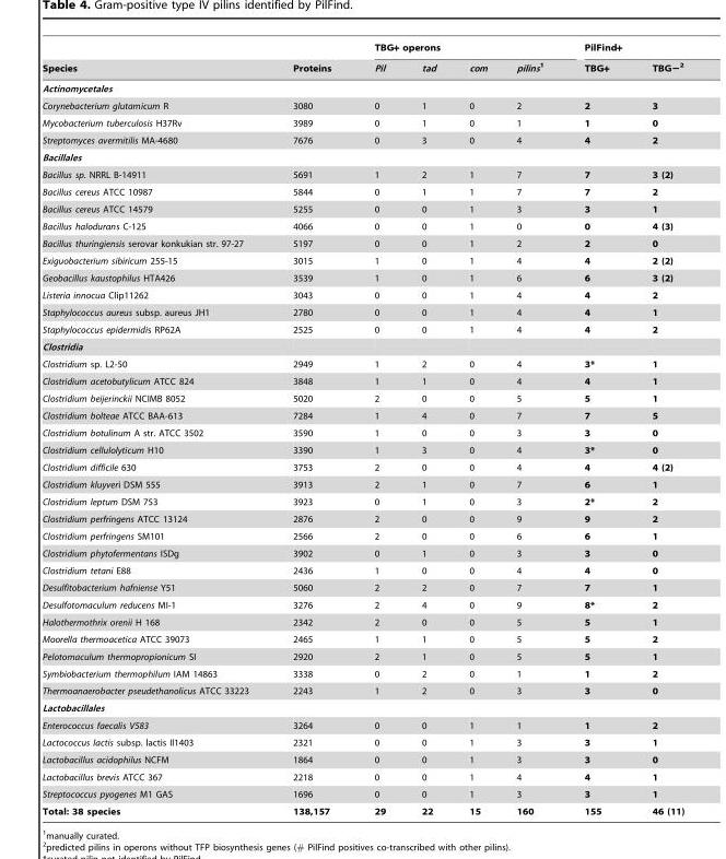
<table><thead><tr><td rowspan="2">Species</td><td rowspan="2">Proteins</td><td colspan="4">TBG+ operons</td><td colspan="2">PilFind+</td></tr><tr><td>Pil</td><td>tad</td><td>com</td><td>pilins1</td><td>TBG+</td><td>TBG−2</td></tr></thead><tbody><tr><td colspan="8">Actinomycetales</td></tr><tr><td>Corynebacterium glutamicum R</td><td>3080</td><td>0</td><td>1</td><td>0</td><td>2</td><td>2</td><td>3</td></tr><tr><td>Mycobacterium tuberculosis H37Rv</td><td>3989</td><td>0</td><td>1</td><td>0</td><td>1</td><td>1</td><td>0</td></tr><tr><td>Streptomyces avermitilis MA-4680</td><td>7676</td><td>0</td><td>3</td><td>0</td><td>4</td><td>4</td><td>2</td></tr><tr><td colspan="8">Bacillales</td></tr><tr><td>Bacillus sp. NRRL B-14911</td><td>5691</td><td>1</td><td>2</td><td>1</td><td>7</td><td>7</td><td>3 (2)</td></tr><tr><td>Bacillus cereus ATCC 10987</td><td>5844</td><td>0</td><td>1</td><td>1</td><td>7</td><td>7</td><td>2</td></tr><tr><td>Bacillus cereus ATCC 14579</td><td>5255</td><td>0</td><td>0</td><td>1</td><td>3</td><td>3</td><td>1</td></tr><tr><td>Bacillus halodurans C-125</td><td>4066</td><td>0</td><td>0</td><td>1</td><td>0</td><td>0</td><td>4 (3)</td></tr><tr><td>Bacillus thuringiensis serovar konkukian str. 97-27</td><td>5197</td><td>0</td><td>0</td><td>1</td><td>2</td><td>2</td><td>0</td></tr><tr><td>Exiguobacterium sibiricum 255-15</td><td>3015</td><td>1</td><td>0</td><td>1</td><td>4</td><td>4</td><td>2 (2)</td></tr><tr><td>Geobacillus kaustophilus HTA426</td><td>3539</td><td>1</td><td>0</td><td>1</td><td>6</td><td>6</td><td>3 (2)</td></tr><tr><td>Listeria innocua Clip11262</td><td>3043</td><td>0</td><td>0</td><td>1</td><td>4</td><td>4</td><td>2</td></tr><tr><td>Staphylococcus aureus subsp. aureus JH1</td><td>2780</td><td>0</td><td>0</td><td>1</td><td>4</td><td>4</td><td>1</td></tr><tr><td>Staphylococcus epidermidis RP62A</td><td>2525</td><td>0</td><td>0</td><td>1</td><td>4</td><td>4</td><td>2</td></tr><tr><td colspan="8">Clostridia</td></tr><tr><td>Clostridium sp. L2-50</td><td>2949</td><td>1</td><td>2</td><td>0</td><td>4</td><td>3*</td><td>1</td></tr><tr><td>Clostridium acetobutylicum ATCC 824</td><td>3848</td><td>1</td><td>1</td><td>0</td><td>4</td><td>4</td><td>1</td></tr><tr><td>Clostridium beijerinckii NCIMB 8052</td><td>5020</td><td>2</td><td>0</td><td>0</td><td>5</td><td>5</td><td>1</td></tr><tr><td>Clostridium bolteae ATCC BAA-613</td><td>7284</td><td>1</td><td>4</td><td>0</td><td>7</td><td>7</td><td>5</td></tr><tr><td>Clostridium botulinum A str. ATCC 3502</td><td>3590</td><td>1</td><td>0</td><td>0</td><td>3</td><td>3</td><td>0</td></tr><tr><td>Clostridium cellulolyticum H10</td><td>3390</td><td>1</td><td>3</td><td>0</td><td>4</td><td>3*</td><td>0</td></tr><tr><td>Clostridium difficile 630</td><td>3753</td><td>2</td><td>0</td><td>0</td><td>4</td><td>4</td><td>4 (2)</td></tr><tr><td>Clostridium kluyveri DSM 555</td><td>3913</td><td>2</td><td>1</td><td>0</td><td>7</td><td>6</td><td>1</td></tr><tr><td>Clostridium leptum DSM 753</td><td>3923</td><td>0</td><td>1</td><td>0</td><td>3</td><td>2*</td><td>2</td></tr><tr><td>Clostridium perfringens ATCC 13124</td><td>2876</td><td>2</td><td>0</td><td>0</td><td>9</td><td>9</td><td>2</td></tr><tr><td>Clostridium perfringens SM101</td><td>2566</td><td>2</td><td>0</td><td>0</td><td>6</td><td>6</td><td>1</td></tr><tr><td>Clostridium phytofermentans ISDg</td><td>3902</td><td>0</td><td>1</td><td>0</td><td>3</td><td>3</td><td>0</td></tr><tr><td>Clostridium tetani E88</td><td>2436</td><td>1</td><td>0</td><td>0</td><td>4</td><td>4</td><td>0</td></tr><tr><td>Desulfitobacterium hafniense Y51</td><td>5060</td><td>2</td><td>2</td><td>0</td><td>7</td><td>7</td><td>1</td></tr><tr><td>Desulfotomaculum reducens MI-1</td><td>3276</td><td>2</td><td>4</td><td>0</td><td>9</td><td>8*</td><td>2</td></tr><tr><td>Halothermothrix orenii H 168</td><td>2342</td><td>2</td><td>0</td><td>0</td><td>5</td><td>5</td><td>1</td></tr><tr><td>Moorella thermoacetica ATCC 39073</td><td>2465</td><td>1</td><td>1</td><td>0</td><td>5</td><td>5</td><td>2</td></tr><tr><td>Pelotomaculum thermopropionicum SI</td><td>2920</td><td>2</td><td>1</td><td>0</td><td>5</td><td>5</td><td>1</td></tr><tr><td>Symbiobacterium thermophilum IAM 14863</td><td>3338</td><td>0</td><td>2</td><td>0</td><td>1</td><td>1</td><td>2</td></tr><tr><td>Thermoanaerobacter pseudethanolicus ATCC 33223</td><td>2243</td><td>1</td><td>2</td><td>0</td><td>3</td><td>3</td><td>0</td></tr><tr><td colspan="8">Lactobacillales</td></tr><tr><td>Enterococcus faecalis V583</td><td>3264</td><td>0</td><td>0</td><td>1</td><td>1</td><td>1</td><td>2</td></tr><tr><td>Lactococcus lactis subsp. lactis Il1403</td><td>2321</td><td>0</td><td>0</td><td>1</td><td>3</td><td>3</td><td>1</td></tr><tr><td>Lactobacillus acidophilus NCFM</td><td>1864</td><td>0</td><td>0</td><td>1</td><td>3</td><td>3</td><td>0</td></tr><tr><td>Lactobacillus brevis ATCC 367</td><td>2218</td><td>0</td><td>0</td><td>1</td><td>4</td><td>4</td><td>1</td></tr><tr><td>Streptococcus pyogenes M1 GAS</td><td>1696</td><td>0</td><td>0</td><td>1</td><td>3</td><td>3</td><td>1</td></tr><tr><td>Total: 38 species</td><td>138,157</td><td>29</td><td>22</td><td>15</td><td>160</td><td>155</td><td>46 (11)</td></tr></tbody></table>